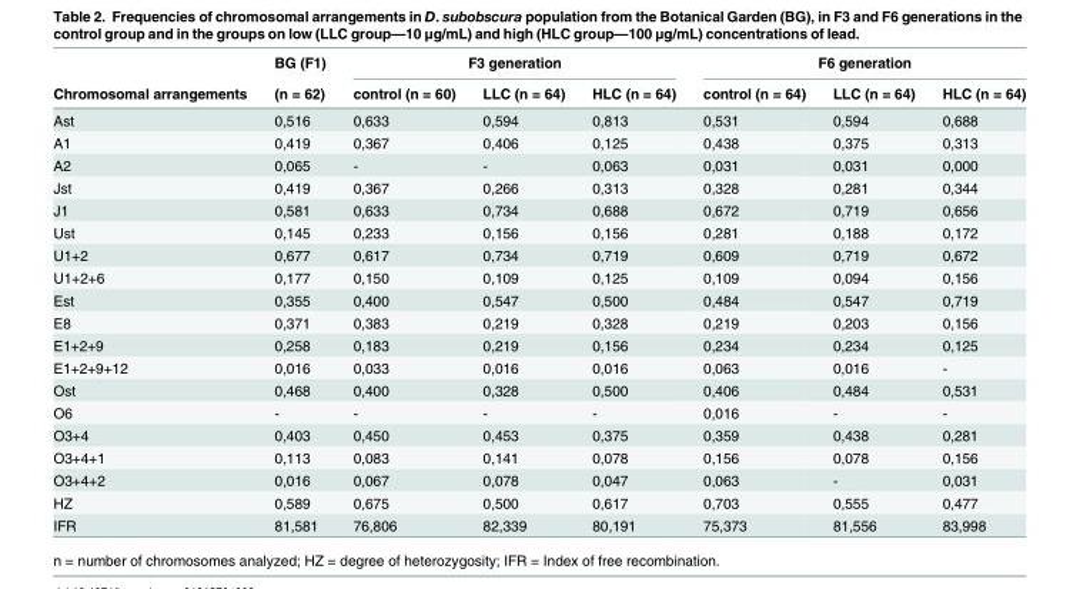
<table><thead><tr><td rowspan="2">Chromosomal arrangements</td><td rowspan="2">BG (F1) (n = 62)</td><td colspan="3">F3 generation</td><td colspan="3">F6 generation</td></tr><tr><td>control (n = 60)</td><td>LLC (n = 64)</td><td>HLC (n = 64)</td><td>control (n = 64)</td><td>LLC (n = 64)</td><td>HLC (n = 64)</td></tr></thead><tbody><tr><td>Ast</td><td>0,516</td><td>0,633</td><td>0,594</td><td>0,813</td><td>0,531</td><td>0,594</td><td>0,688</td></tr><tr><td>A1</td><td>0,419</td><td>0,367</td><td>0,406</td><td>0,125</td><td>0,438</td><td>0,375</td><td>0,313</td></tr><tr><td>A2</td><td>0,065</td><td>-</td><td>-</td><td>0,063</td><td>0,031</td><td>0,031</td><td>0,000</td></tr><tr><td>Jst</td><td>0,419</td><td>0,367</td><td>0,266</td><td>0,313</td><td>0,328</td><td>0,281</td><td>0,344</td></tr><tr><td>J1</td><td>0,581</td><td>0,633</td><td>0,734</td><td>0,688</td><td>0,672</td><td>0,719</td><td>0,656</td></tr><tr><td>Ust</td><td>0,145</td><td>0,233</td><td>0,156</td><td>0,156</td><td>0,281</td><td>0,188</td><td>0,172</td></tr><tr><td>U1+2</td><td>0,677</td><td>0,617</td><td>0,734</td><td>0,719</td><td>0,609</td><td>0,719</td><td>0,672</td></tr><tr><td>U1+2+6</td><td>0,177</td><td>0,150</td><td>0,109</td><td>0,125</td><td>0,109</td><td>0,094</td><td>0,156</td></tr><tr><td>Est</td><td>0,355</td><td>0,400</td><td>0,547</td><td>0,500</td><td>0,484</td><td>0,547</td><td>0,719</td></tr><tr><td>E8</td><td>0,371</td><td>0,383</td><td>0,219</td><td>0,328</td><td>0,219</td><td>0,203</td><td>0,156</td></tr><tr><td>E1+2+9</td><td>0,258</td><td>0,183</td><td>0,219</td><td>0,156</td><td>0,234</td><td>0,234</td><td>0,125</td></tr><tr><td>E1+2+9+12</td><td>0,016</td><td>0,033</td><td>0,016</td><td>0,016</td><td>0,063</td><td>0,016</td><td>-</td></tr><tr><td>Ost</td><td>0,468</td><td>0,400</td><td>0,328</td><td>0,500</td><td>0,406</td><td>0,484</td><td>0,531</td></tr><tr><td>O6</td><td>-</td><td>-</td><td>-</td><td>-</td><td>0,016</td><td>-</td><td>-</td></tr><tr><td>O3+4</td><td>0,403</td><td>0,450</td><td>0,453</td><td>0,375</td><td>0,359</td><td>0,438</td><td>0,281</td></tr><tr><td>O3+4+1</td><td>0,113</td><td>0,083</td><td>0,141</td><td>0,078</td><td>0,156</td><td>0,078</td><td>0,156</td></tr><tr><td>O3+4+2</td><td>0,016</td><td>0,067</td><td>0,078</td><td>0,047</td><td>0,063</td><td>-</td><td>0,031</td></tr><tr><td>HZ</td><td>0,589</td><td>0,675</td><td>0,500</td><td>0,617</td><td>0,703</td><td>0,555</td><td>0,477</td></tr><tr><td>IFR</td><td>81,581</td><td>76,806</td><td>82,339</td><td>80,191</td><td>75,373</td><td>81,556</td><td>83,998</td></tr></tbody></table>